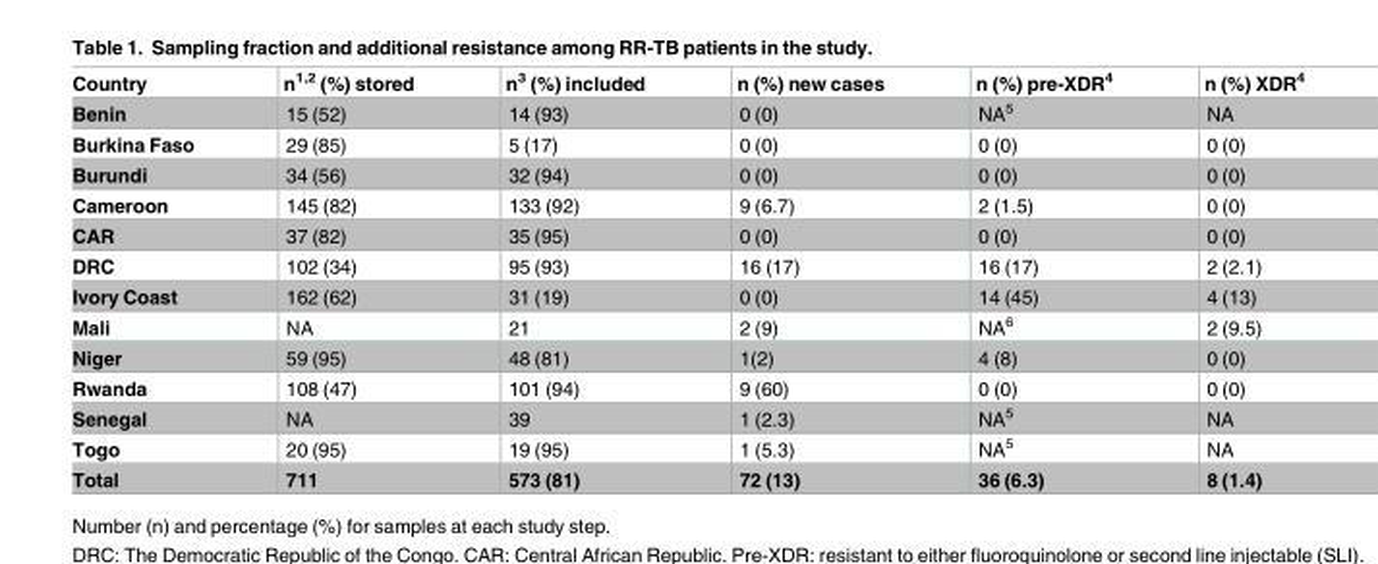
<table><thead><tr><td>Country</td><td>n<sup>1,2</sup> (%) stored</td><td>n<sup>3</sup> (%) included</td><td>n (%) new cases</td><td>n (%) pre-XDR<sup>4</sup></td><td>n (%) XDR<sup>4</sup></td></tr></thead><tbody><tr><td>Benin</td><td>15 (52)</td><td>14 (93)</td><td>0 (0)</td><td>NA<sup>5</sup></td><td>NA</td></tr><tr><td>Burkina Faso</td><td>29 (85)</td><td>5 (17)</td><td>0 (0)</td><td>0 (0)</td><td>0 (0)</td></tr><tr><td>Burundi</td><td>34 (56)</td><td>32 (94)</td><td>0 (0)</td><td>0 (0)</td><td>0 (0)</td></tr><tr><td>Cameroon</td><td>145 (82)</td><td>133 (92)</td><td>9 (6.7)</td><td>2 (1.5)</td><td>0 (0)</td></tr><tr><td>CAR</td><td>37 (82)</td><td>35 (95)</td><td>0 (0)</td><td>0 (0)</td><td>0 (0)</td></tr><tr><td>DRC</td><td>102 (34)</td><td>95 (93)</td><td>16 (17)</td><td>16 (17)</td><td>2 (2.1)</td></tr><tr><td>Ivory Coast</td><td>162 (62)</td><td>31 (19)</td><td>0 (0)</td><td>14 (45)</td><td>4 (13)</td></tr><tr><td>Mali</td><td>NA</td><td>21</td><td>2 (9)</td><td>NA<sup>6</sup></td><td>2 (9.5)</td></tr><tr><td>Niger</td><td>59 (95)</td><td>48 (81)</td><td>1(2)</td><td>4 (8)</td><td>0 (0)</td></tr><tr><td>Rwanda</td><td>108 (47)</td><td>101 (94)</td><td>9 (60)</td><td>0 (0)</td><td>0 (0)</td></tr><tr><td>Senegal</td><td>NA</td><td>39</td><td>1 (2.3)</td><td>NA<sup>5</sup></td><td>NA</td></tr><tr><td>Togo</td><td>20 (95)</td><td>19 (95)</td><td>1 (5.3)</td><td>NA<sup>5</sup></td><td>NA</td></tr><tr><td>Total</td><td>711</td><td>573 (81)</td><td>72 (13)</td><td>36 (6.3)</td><td>8 (1.4)</td></tr></tbody></table>